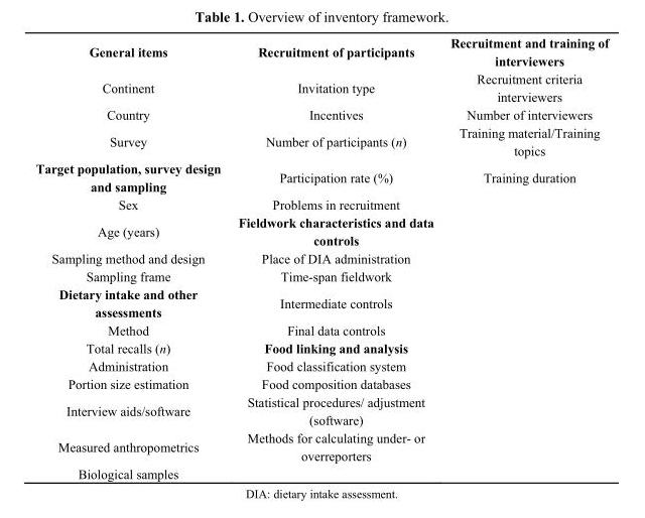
<table><tbody><tr><td>General items</td><td>Recruitment of participants</td><td>Recruitment and training of interviewers</td></tr><tr><td>Continent</td><td>Invitation type</td><td>Recruitment criteria interviewers</td></tr><tr><td>Country</td><td>Incentives</td><td>Number of interviewers</td></tr><tr><td>Survey</td><td>Number of participants (n)</td><td>Training material/Training topics</td></tr><tr><td>Target population, survey design and sampling</td><td>Participation rate (%)</td><td>Training duration</td></tr><tr><td>Sex</td><td>Problems in recruitment</td><td></td></tr><tr><td>Age (years)</td><td>Fieldwork characteristics and data controls</td><td></td></tr><tr><td>Sampling method and design</td><td>Place of DIA administration</td><td></td></tr><tr><td>Sampling frame</td><td>Time-span fieldwork</td><td></td></tr><tr><td>Dietary intake and other assessments</td><td>Intermediate controls</td><td></td></tr><tr><td>Method</td><td>Final data controls</td><td></td></tr><tr><td>Total recalls (n)</td><td>Food linking and analysis</td><td></td></tr><tr><td>Administration</td><td>Food classification system</td><td></td></tr><tr><td>Portion size estimation</td><td>Food composition databases</td><td></td></tr><tr><td>Interview aids/software</td><td>Statistical procedures/ adjustment (software)</td><td></td></tr><tr><td>Measured anthropometrics</td><td>Methods for calculating under- or overreporters</td><td></td></tr><tr><td>Biological samples</td><td></td><td></td></tr></tbody></table>